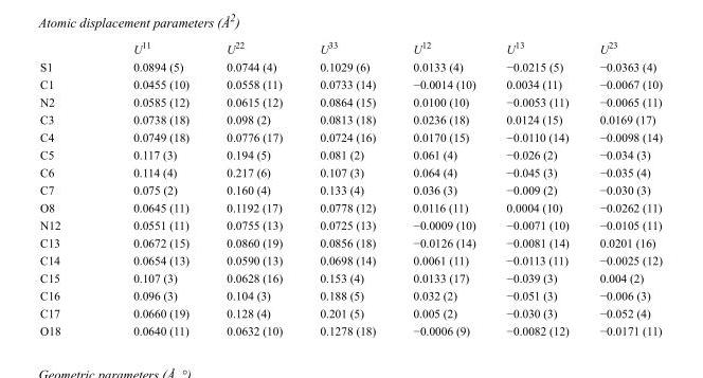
<table><thead><tr><td></td><td>U<sup>11</sup></td><td>U<sup>22</sup></td><td>U<sup>33</sup></td><td>U<sup>12</sup></td><td>U<sup>13</sup></td><td>U<sup>23</sup></td></tr></thead><tbody><tr><td>S1</td><td>0.0894 (5)</td><td>0.0744 (4)</td><td>0.1029 (6)</td><td>0.0133 (4)</td><td>−0.0215 (5)</td><td>−0.0363 (4)</td></tr><tr><td>C1</td><td>0.0455 (10)</td><td>0.0558 (11)</td><td>0.0733 (14)</td><td>−0.0014 (10)</td><td>0.0034 (11)</td><td>−0.0067 (10)</td></tr><tr><td>N2</td><td>0.0585 (12)</td><td>0.0615 (12)</td><td>0.0864 (15)</td><td>0.0100 (10)</td><td>−0.0053 (11)</td><td>−0.0065 (11)</td></tr><tr><td>C3</td><td>0.0738 (18)</td><td>0.098 (2)</td><td>0.0813 (18)</td><td>0.0236 (18)</td><td>0.0124 (15)</td><td>0.0169 (17)</td></tr><tr><td>C4</td><td>0.0749 (18)</td><td>0.0776 (17)</td><td>0.0724 (16)</td><td>0.0170 (15)</td><td>−0.0110 (14)</td><td>−0.0098 (14)</td></tr><tr><td>C5</td><td>0.117 (3)</td><td>0.194 (5)</td><td>0.081 (2)</td><td>0.061 (4)</td><td>−0.026 (2)</td><td>−0.034 (3)</td></tr><tr><td>C6</td><td>0.114 (4)</td><td>0.217 (6)</td><td>0.107 (3)</td><td>0.064 (4)</td><td>−0.045 (3)</td><td>−0.035 (4)</td></tr><tr><td>C7</td><td>0.075 (2)</td><td>0.160 (4)</td><td>0.133 (4)</td><td>0.036 (3)</td><td>−0.009 (2)</td><td>−0.030 (3)</td></tr><tr><td>O8</td><td>0.0645 (11)</td><td>0.1192 (17)</td><td>0.0778 (12)</td><td>0.0116 (11)</td><td>0.0004 (10)</td><td>−0.0262 (11)</td></tr><tr><td>N12</td><td>0.0551 (11)</td><td>0.0755 (13)</td><td>0.0725 (13)</td><td>−0.0009 (10)</td><td>−0.0071 (10)</td><td>−0.0105 (11)</td></tr><tr><td>C13</td><td>0.0672 (15)</td><td>0.0860 (19)</td><td>0.0856 (18)</td><td>−0.0126 (14)</td><td>−0.0081 (14)</td><td>0.0201 (16)</td></tr><tr><td>C14</td><td>0.0654 (13)</td><td>0.0590 (13)</td><td>0.0698 (14)</td><td>0.0061 (11)</td><td>−0.0113 (11)</td><td>−0.0025 (12)</td></tr><tr><td>C15</td><td>0.107 (3)</td><td>0.0628 (16)</td><td>0.153 (4)</td><td>0.0133 (17)</td><td>−0.039 (3)</td><td>0.004 (2)</td></tr><tr><td>C16</td><td>0.096 (3)</td><td>0.104 (3)</td><td>0.188 (5)</td><td>0.032 (2)</td><td>−0.051 (3)</td><td>−0.006 (3)</td></tr><tr><td>C17</td><td>0.0660 (19)</td><td>0.128 (4)</td><td>0.201 (5)</td><td>0.005 (2)</td><td>−0.030 (3)</td><td>−0.052 (4)</td></tr><tr><td>O18</td><td>0.0640 (11)</td><td>0.0632 (10)</td><td>0.1278 (18)</td><td>−0.0006 (9)</td><td>−0.0082 (12)</td><td>−0.0171 (11)</td></tr></tbody></table>